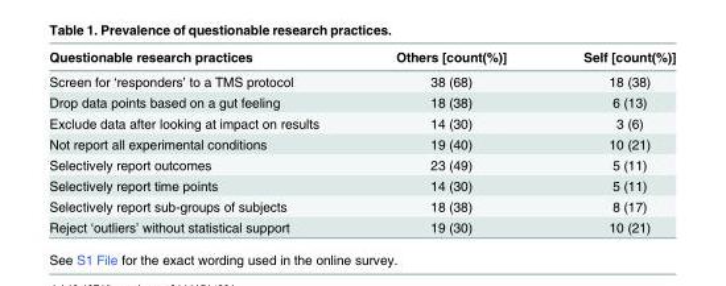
<table><thead><tr><td>Questionable research practices</td><td>Others [count(%)]</td><td>Self [count(%)]</td></tr></thead><tbody><tr><td>Screen for ‘responders’ to a TMS protocol</td><td>38 (68)</td><td>18 (38)</td></tr><tr><td>Drop data points based on a gut feeling</td><td>18 (38)</td><td>6 (13)</td></tr><tr><td>Exclude data after looking at impact on results</td><td>14 (30)</td><td>3 (6)</td></tr><tr><td>Not report all experimental conditions</td><td>19 (40)</td><td>10 (21)</td></tr><tr><td>Selectively report outcomes</td><td>23 (49)</td><td>5 (11)</td></tr><tr><td>Selectively report time points</td><td>14 (30)</td><td>5 (11)</td></tr><tr><td>Selectively report sub-groups of subjects</td><td>18 (38)</td><td>8 (17)</td></tr><tr><td>Reject ‘outliers’ without statistical support</td><td>19 (30)</td><td>10 (21)</td></tr></tbody></table>